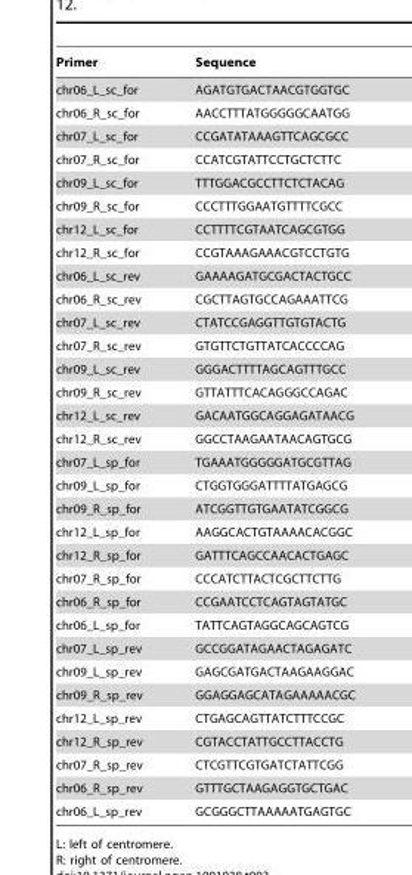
<table><thead><tr><td>Primer</td><td>Sequence</td></tr></thead><tbody><tr><td>chr06_L_sc_for</td><td>AGATGTGACTAACGTGGTGC</td></tr><tr><td>chr06_R_sc_for</td><td>AACCTTTATGGGGGCAATGG</td></tr><tr><td>chr07_L_sc_for</td><td>CCGATATAAAGTTCAGCGCC</td></tr><tr><td>chr07_R_sc_for</td><td>CCATCGTATTCCTGCTCTTC</td></tr><tr><td>chr09_L_sc_for</td><td>TTTGGACGCCTTCTCTACAG</td></tr><tr><td>chr09_R_sc_for</td><td>CCCTTTGGAATGTTTTCGCC</td></tr><tr><td>chr12_L_sc_for</td><td>CCTTTTCGTAATCAGCGTGG</td></tr><tr><td>chr12_R_sc_for</td><td>CCGTAAAGAAACGTCCTGTG</td></tr><tr><td>chr06_L_sc_rev</td><td>GAAAAGATGCGACTACTGCC</td></tr><tr><td>chr06_R_sc_rev</td><td>CGCTTAGTGCCAGAAATTCG</td></tr><tr><td>chr07_L_sc_rev</td><td>CTATCCGAGGTTGTGTACTG</td></tr><tr><td>chr07_R_sc_rev</td><td>GTGTTCTGTTATCACCCCAG</td></tr><tr><td>chr09_L_sc_rev</td><td>GGGACTTTTAGCAGTTTGCC</td></tr><tr><td>chr09_R_sc_rev</td><td>GTTATTTCACAGGGCCAGAC</td></tr><tr><td>chr12_L_sc_rev</td><td>GACAATGGCAGGAGATAACG</td></tr><tr><td>chr12_R_sc_rev</td><td>GGCCTAAGAATAACAGTGCG</td></tr><tr><td>chr07_L_sp_for</td><td>TGAAATGGGGGATGCGTTAG</td></tr><tr><td>chr09_L_sp_for</td><td>CTGGTGGGATTTTATGAGCG</td></tr><tr><td>chr09_R_sp_for</td><td>ATCGGTTGTGAATATCGGCG</td></tr><tr><td>chr12_L_sp_for</td><td>AAGGCACTGTAAAACACGGC</td></tr><tr><td>chr12_R_sp_for</td><td>GATTTCAGCCAACACTGAGC</td></tr><tr><td>chr07_R_sp_for</td><td>CCCATCTTACTCGCTTCTTG</td></tr><tr><td>chr06_R_sp_for</td><td>CCGAATCCTCAGTAGTATGC</td></tr><tr><td>chr06_L_sp_for</td><td>TATTCAGTAGGCAGCAGTCG</td></tr><tr><td>chr07_L_sp_rev</td><td>GCCGGATAGAACTAGAGATC</td></tr><tr><td>chr09_L_sp_rev</td><td>GAGCGATGACTAAGAAGGAC</td></tr><tr><td>chr09_R_sp_rev</td><td>GGAGGAGCATAGAAAAACGC</td></tr><tr><td>chr12_L_sp_rev</td><td>CTGAGCAGTTATCTTTCCGC</td></tr><tr><td>chr12_R_sp_rev</td><td>CGTACCTATTGCCTTACCTG</td></tr><tr><td>chr07_R_sp_rev</td><td>CTCGTTCGTGATCTATTCGG</td></tr><tr><td>chr06_R_sp_rev</td><td>GTTTGCTAAGAGGTGCTGAC</td></tr><tr><td>chr06_L_sp_rev</td><td>GCGGGCTTAAAAATGAGTGC</td></tr></tbody></table>